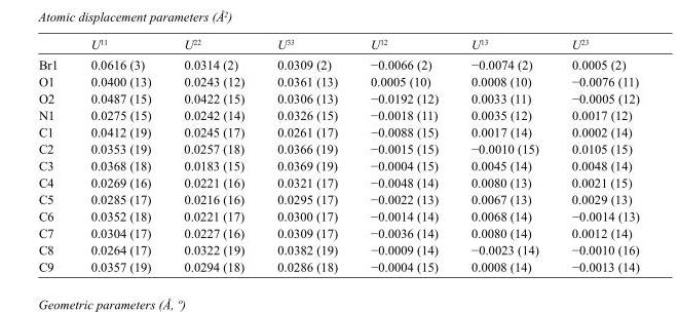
<table><thead><tr><td></td><td>U<sup>11</sup></td><td>U<sup>22</sup></td><td>U<sup>33</sup></td><td>U<sup>12</sup></td><td>U<sup>13</sup></td><td>U<sup>23</sup></td></tr></thead><tbody><tr><td>Br1</td><td>0.0616 (3)</td><td>0.0314 (2)</td><td>0.0309 (2)</td><td>−0.0066 (2)</td><td>−0.0074 (2)</td><td>0.0005 (2)</td></tr><tr><td>O1</td><td>0.0400 (13)</td><td>0.0243 (12)</td><td>0.0361 (13)</td><td>0.0005 (10)</td><td>0.0008 (10)</td><td>−0.0076 (11)</td></tr><tr><td>O2</td><td>0.0487 (15)</td><td>0.0422 (15)</td><td>0.0306 (13)</td><td>−0.0192 (12)</td><td>0.0033 (11)</td><td>−0.0005 (12)</td></tr><tr><td>N1</td><td>0.0275 (15)</td><td>0.0242 (14)</td><td>0.0326 (15)</td><td>−0.0018 (11)</td><td>0.0035 (12)</td><td>0.0017 (12)</td></tr><tr><td>C1</td><td>0.0412 (19)</td><td>0.0245 (17)</td><td>0.0261 (17)</td><td>−0.0088 (15)</td><td>0.0017 (14)</td><td>0.0002 (14)</td></tr><tr><td>C2</td><td>0.0353 (19)</td><td>0.0257 (18)</td><td>0.0366 (19)</td><td>−0.0015 (15)</td><td>−0.0010 (15)</td><td>0.0105 (15)</td></tr><tr><td>C3</td><td>0.0368 (18)</td><td>0.0183 (15)</td><td>0.0369 (19)</td><td>−0.0004 (15)</td><td>0.0045 (14)</td><td>0.0048 (14)</td></tr><tr><td>C4</td><td>0.0269 (16)</td><td>0.0221 (16)</td><td>0.0321 (17)</td><td>−0.0048 (14)</td><td>0.0080 (13)</td><td>0.0021 (15)</td></tr><tr><td>C5</td><td>0.0285 (17)</td><td>0.0216 (16)</td><td>0.0295 (17)</td><td>−0.0022 (13)</td><td>0.0067 (13)</td><td>0.0029 (13)</td></tr><tr><td>C6</td><td>0.0352 (18)</td><td>0.0221 (17)</td><td>0.0300 (17)</td><td>−0.0014 (14)</td><td>0.0068 (14)</td><td>−0.0014 (13)</td></tr><tr><td>C7</td><td>0.0304 (17)</td><td>0.0227 (16)</td><td>0.0309 (17)</td><td>−0.0036 (14)</td><td>0.0080 (14)</td><td>0.0012 (14)</td></tr><tr><td>C8</td><td>0.0264 (17)</td><td>0.0322 (19)</td><td>0.0382 (19)</td><td>−0.0009 (14)</td><td>−0.0023 (14)</td><td>−0.0010 (16)</td></tr><tr><td>C9</td><td>0.0357 (19)</td><td>0.0294 (18)</td><td>0.0286 (18)</td><td>−0.0004 (15)</td><td>0.0008 (14)</td><td>−0.0013 (14)</td></tr></tbody></table>